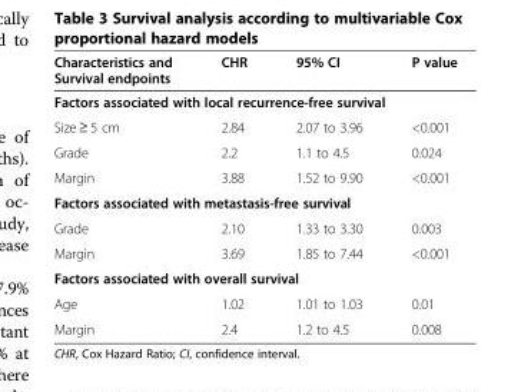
<table><thead><tr><td>Characteristics and Survival endpoints</td><td>CHR</td><td>95% CI</td><td>P value</td></tr></thead><tbody><tr><td colspan="4">Factors associated with local recurrence-free survival</td></tr><tr><td>Size ≥ 5 cm</td><td>2.84</td><td>2.07 to 3.96</td><td>&lt;0.001</td></tr><tr><td>Grade</td><td>2.2</td><td>1.1 to 4.5</td><td>0.024</td></tr><tr><td>Margin</td><td>3.88</td><td>1.52 to 9.90</td><td>&lt;0.001</td></tr><tr><td colspan="4">Factors associated with metastasis-free survival</td></tr><tr><td>Grade</td><td>2.10</td><td>1.33 to 3.30</td><td>0.003</td></tr><tr><td>Margin</td><td>3.69</td><td>1.85 to 7.44</td><td>&lt;0.001</td></tr><tr><td colspan="4">Factors associated with overall survival</td></tr><tr><td>Age</td><td>1.02</td><td>1.01 to 1.03</td><td>0.01</td></tr><tr><td>Margin</td><td>2.4</td><td>1.2 to 4.5</td><td>0.008</td></tr></tbody></table>